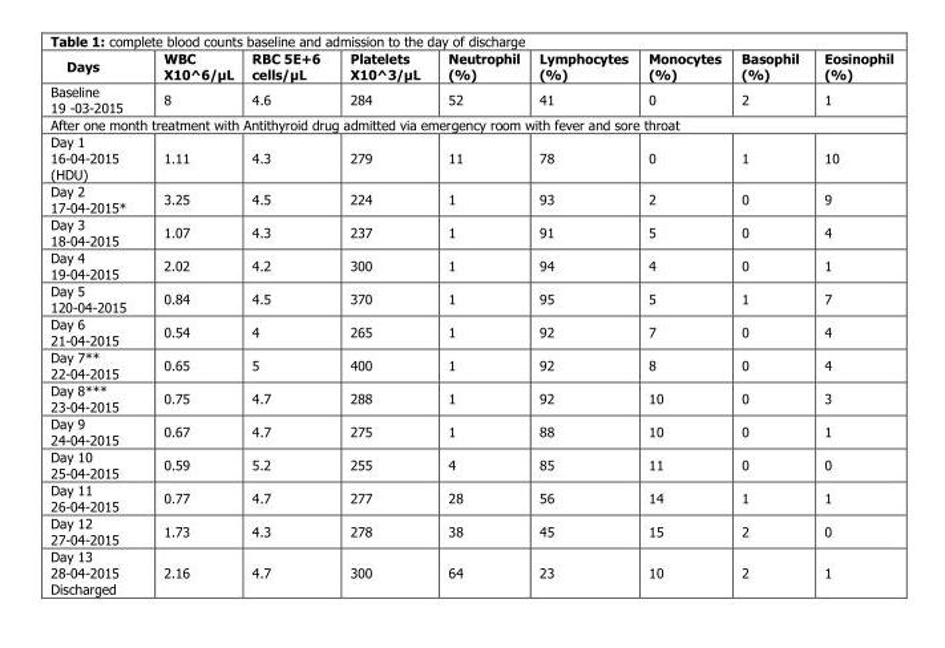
<table><thead><tr><td>Days</td><td>WBC X10^6/μL</td><td>RBC 5E+6 cells/μL</td><td>Platelets X10^3/μL</td><td>Neutrophil (%)</td><td>Lymphocytes (%)</td><td>Monocytes (%)</td><td>Basophil (%)</td><td>Eosinophil (%)</td></tr></thead><tbody><tr><td>Baseline 19 -03-2015</td><td>8</td><td>4.6</td><td>284</td><td>52</td><td>41</td><td>0</td><td>2</td><td>1</td></tr><tr><td colspan="9">After one month treatment with Antithyroid drug admitted via emergency room with fever and sore throat</td></tr><tr><td>Day 1 16-04-2015 (HDU)</td><td>1.11</td><td>4.3</td><td>279</td><td>11</td><td>78</td><td>0</td><td>1</td><td>10</td></tr><tr><td>Day 2 17-04-2015*</td><td>3.25</td><td>4.5</td><td>224</td><td>1</td><td>93</td><td>2</td><td>0</td><td>9</td></tr><tr><td>Day 3 18-04-2015</td><td>1.07</td><td>4.3</td><td>237</td><td>1</td><td>91</td><td>5</td><td>0</td><td>4</td></tr><tr><td>Day 4 19-04-2015</td><td>2.02</td><td>4.2</td><td>300</td><td>1</td><td>94</td><td>4</td><td>0</td><td>1</td></tr><tr><td>Day 5 120-04-2015</td><td>0.84</td><td>4.5</td><td>370</td><td>1</td><td>95</td><td>5</td><td>1</td><td>7</td></tr><tr><td>Day 6 21-04-2015</td><td>0.54</td><td>4</td><td>265</td><td>1</td><td>92</td><td>7</td><td>0</td><td>4</td></tr><tr><td>Day 7** 22-04-2015</td><td>0.65</td><td>5</td><td>400</td><td>1</td><td>92</td><td>8</td><td>0</td><td>4</td></tr><tr><td>Day 8*** 23-04-2015</td><td>0.75</td><td>4.7</td><td>288</td><td>1</td><td>92</td><td>10</td><td>0</td><td>3</td></tr><tr><td>Day 9 24-04-2015</td><td>0.67</td><td>4.7</td><td>275</td><td>1</td><td>88</td><td>10</td><td>0</td><td>1</td></tr><tr><td>Day 10 25-04-2015</td><td>0.59</td><td>5.2</td><td>255</td><td>4</td><td>85</td><td>11</td><td>0</td><td>0</td></tr><tr><td>Day 11 26-04-2015</td><td>0.77</td><td>4.7</td><td>277</td><td>28</td><td>56</td><td>14</td><td>1</td><td>1</td></tr><tr><td>Day 12 27-04-2015</td><td>1.73</td><td>4.3</td><td>278</td><td>38</td><td>45</td><td>15</td><td>2</td><td>0</td></tr><tr><td>Day 13 28-04-2015 Discharged</td><td>2.16</td><td>4.7</td><td>300</td><td>64</td><td>23</td><td>10</td><td>2</td><td>1</td></tr></tbody></table>